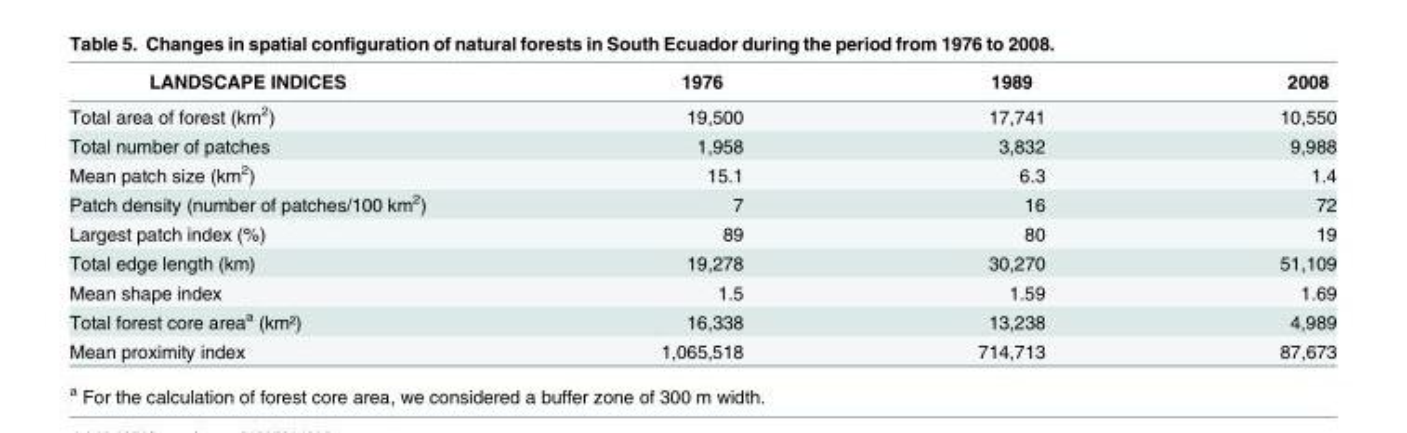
<table><thead><tr><td>LANDSCAPE INDICES</td><td>1976</td><td>1989</td><td>2008</td></tr></thead><tbody><tr><td>Total area of forest (km<sup>2</sup>)</td><td>19,500</td><td>17,741</td><td>10,550</td></tr><tr><td>Total number of patches</td><td>1,958</td><td>3,832</td><td>9,988</td></tr><tr><td>Mean patch size (km<sup>2</sup>)</td><td>15.1</td><td>6.3</td><td>1.4</td></tr><tr><td>Patch density (number of patches/100 km<sup>2</sup>)</td><td>7</td><td>16</td><td>72</td></tr><tr><td>Largest patch index (%)</td><td>89</td><td>80</td><td>19</td></tr><tr><td>Total edge length (km)</td><td>19,278</td><td>30,270</td><td>51,109</td></tr><tr><td>Mean shape index</td><td>1.5</td><td>1.59</td><td>1.69</td></tr><tr><td>Total forest core area<sup>a</sup> (km²)</td><td>16,338</td><td>13,238</td><td>4,989</td></tr><tr><td>Mean proximity index</td><td>1,065,518</td><td>714,713</td><td>87,673</td></tr></tbody></table>